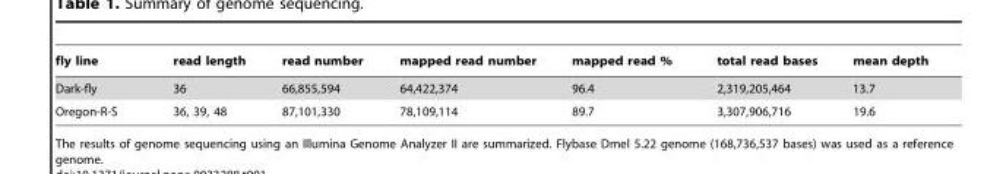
<table><thead><tr><td>fly line</td><td>read length</td><td>read number</td><td>mapped read number</td><td>mapped read %</td><td>total read bases</td><td>mean depth</td></tr></thead><tbody><tr><td>Dark-fly</td><td>36</td><td>66,855,594</td><td>64,422,374</td><td>96.4</td><td>2,319,205,464</td><td>13.7</td></tr><tr><td>Oregon-R-S</td><td>36, 39, 48</td><td>87,101,330</td><td>78,109,114</td><td>89.7</td><td>3,307,906,716</td><td>19.6</td></tr></tbody></table>